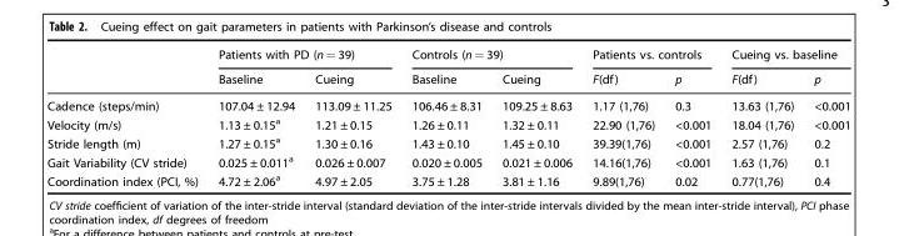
<table><thead><tr><td rowspan="2"></td><td colspan="2">Patients with PD (n = 39)</td><td colspan="2">Controls (n = 39)</td><td colspan="2">Patients vs. controls</td><td colspan="2">Cueing vs. baseline</td></tr><tr><td>Baseline</td><td>Cueing</td><td>Baseline</td><td>Cueing</td><td>F(df)</td><td>p</td><td>F(df)</td><td>p</td></tr></thead><tbody><tr><td>Cadence (steps/min)</td><td>107.04 ± 12.94</td><td>113.09 ± 11.25</td><td>106.46 ± 8.31</td><td>109.25 ± 8.63</td><td>1.17 (1,76)</td><td>0.3</td><td>13.63 (1,76)</td><td>&lt;0.001</td></tr><tr><td>Velocity (m/s)</td><td>1.13 ± 0.15<sup>a</sup></td><td>1.21 ± 0.15</td><td>1.26 ± 0.11</td><td>1.32 ± 0.11</td><td>22.90 (1,76)</td><td>&lt;0.001</td><td>18.04 (1,76)</td><td>&lt;0.001</td></tr><tr><td>Stride length (m)</td><td>1.27 ± 0.15<sup>a</sup></td><td>1.30 ± 0.16</td><td>1.43 ± 0.10</td><td>1.45 ± 0.10</td><td>39.39(1,76)</td><td>&lt;0.001</td><td>2.57 (1,76)</td><td>0.2</td></tr><tr><td>Gait Variability (CV stride)</td><td>0.025 ± 0.011<sup>a</sup></td><td>0.026 ± 0.007</td><td>0.020 ± 0.005</td><td>0.021 ± 0.006</td><td>14.16(1,76)</td><td>&lt;0.001</td><td>1.63 (1,76)</td><td>0.1</td></tr><tr><td>Coordination index (PCI, %)</td><td>4.72 ± 2.06<sup>a</sup></td><td>4.97 ± 2.05</td><td>3.75 ± 1.28</td><td>3.81 ± 1.16</td><td>9.89(1,76)</td><td>0.02</td><td>0.77(1,76)</td><td>0.4</td></tr></tbody></table>